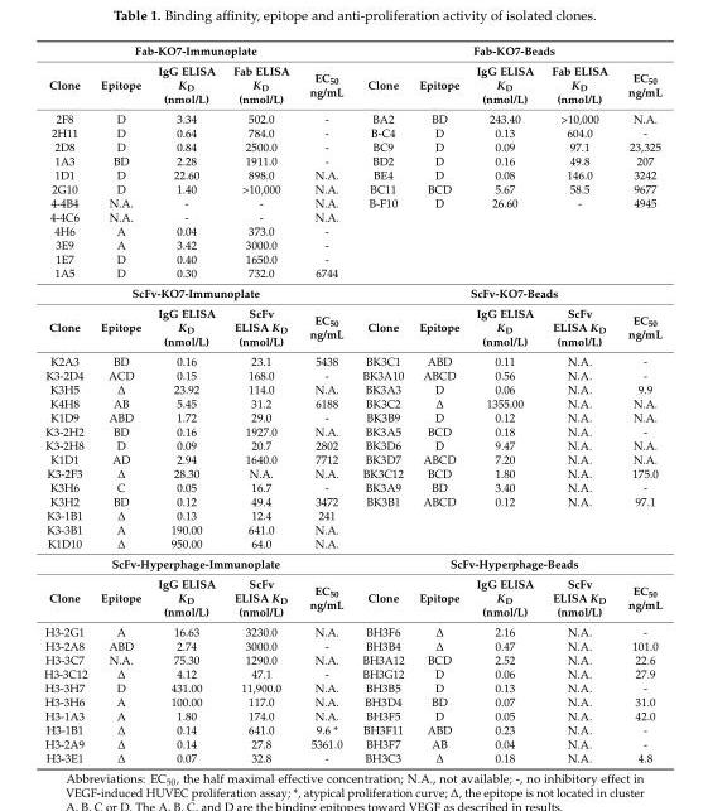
<table><tbody><tr><td colspan="5">Fab-KO7-Immunoplate</td><td colspan="5">Fab-KO7-Beads</td></tr><tr><td>Clone</td><td>Epitope</td><td>IgG ELISA K<sub>D</sub> (nmol/L)</td><td>Fab ELISA K<sub>D</sub> (nmol/L)</td><td>EC<sub>50</sub> ng/mL</td><td>Clone</td><td>Epitope</td><td>IgG ELISA K<sub>D</sub> (nmol/L)</td><td>Fab ELISA K<sub>D</sub> (nmol/L)</td><td>EC<sub>50</sub> ng/mL</td></tr><tr><td>2F8</td><td>D</td><td>3.34</td><td>502.0</td><td>-</td><td>BA2</td><td>BD</td><td>243.40</td><td>&gt;10,000</td><td>N.A.</td></tr><tr><td>2H11</td><td>D</td><td>0.64</td><td>784.0</td><td>-</td><td>B-C4</td><td>D</td><td>0.13</td><td>604.0</td><td>-</td></tr><tr><td>2D8</td><td>D</td><td>0.84</td><td>2500.0</td><td>-</td><td>BC9</td><td>D</td><td>0.09</td><td>97.1</td><td>23,325</td></tr><tr><td>1A3</td><td>BD</td><td>2.28</td><td>1911.0</td><td>-</td><td>BD2</td><td>D</td><td>0.16</td><td>49.8</td><td>207</td></tr><tr><td>1D1</td><td>D</td><td>22.60</td><td>898.0</td><td>N.A.</td><td>BE4</td><td>D</td><td>0.08</td><td>146.0</td><td>3242</td></tr><tr><td>2G10</td><td>D</td><td>1.40</td><td>&gt;10,000</td><td>N.A.</td><td>BC11</td><td>BCD</td><td>5.67</td><td>58.5</td><td>9677</td></tr><tr><td>4-4B4</td><td>N.A.</td><td>-</td><td>-</td><td>N.A.</td><td>B-F10</td><td>D</td><td>26.60</td><td>-</td><td>4945</td></tr><tr><td>4-4C6</td><td>N.A.</td><td>-</td><td>-</td><td>N.A.</td><td></td><td></td><td></td><td></td><td></td></tr><tr><td>4H6</td><td>A</td><td>0.04</td><td>373.0</td><td>-</td><td></td><td></td><td></td><td></td><td></td></tr><tr><td>3E9</td><td>A</td><td>3.42</td><td>3000.0</td><td>-</td><td></td><td></td><td></td><td></td><td></td></tr><tr><td>1E7</td><td>D</td><td>0.40</td><td>1650.0</td><td>-</td><td></td><td></td><td></td><td></td><td></td></tr><tr><td>1A5</td><td>D</td><td>0.30</td><td>732.0</td><td>6744</td><td></td><td></td><td></td><td></td><td></td></tr><tr><td colspan="5">ScFv-KO7-Immunoplate</td><td colspan="5">ScFv-KO7-Beads</td></tr><tr><td>Clone</td><td>Epitope</td><td>IgG ELISA K<sub>D</sub> (nmol/L)</td><td>ScFv ELISA K<sub>D</sub> (nmol/L)</td><td>EC<sub>50</sub> ng/mL</td><td>Clone</td><td>Epitope</td><td>IgG ELISA K<sub>D</sub> (nmol/L)</td><td>ScFv ELISA K<sub>D</sub> (nmol/L)</td><td>EC<sub>50</sub> ng/mL</td></tr><tr><td>K2A3</td><td>BD</td><td>0.16</td><td>23.1</td><td>5438</td><td>BK3C1</td><td>ABD</td><td>0.11</td><td>N.A.</td><td>-</td></tr><tr><td>K3-2D4</td><td>ACD</td><td>0.15</td><td>168.0</td><td>-</td><td>BK3A10</td><td>ABCD</td><td>0.56</td><td>N.A.</td><td>-</td></tr><tr><td>K3H5</td><td>∆</td><td>23.92</td><td>114.0</td><td>N.A.</td><td>BK3A3</td><td>D</td><td>0.06</td><td>N.A.</td><td>9.9</td></tr><tr><td>K4H8</td><td>AB</td><td>5.45</td><td>31.2</td><td>6188</td><td>BK3C2</td><td>∆</td><td>1355.00</td><td>N.A.</td><td>N.A.</td></tr><tr><td>K1D9</td><td>ABD</td><td>1.72</td><td>29.0</td><td>-</td><td>BK3B9</td><td>D</td><td>0.12</td><td>N.A.</td><td>N.A.</td></tr><tr><td>K3-2H2</td><td>BD</td><td>0.16</td><td>1927.0</td><td>N.A.</td><td>BK3A5</td><td>BCD</td><td>0.18</td><td>N.A.</td><td>-</td></tr><tr><td>K3-2H8</td><td>D</td><td>0.09</td><td>20.7</td><td>2802</td><td>BK3D6</td><td>D</td><td>9.47</td><td>N.A.</td><td>N.A.</td></tr><tr><td>K1D1</td><td>AD</td><td>2.94</td><td>1640.0</td><td>7712</td><td>BK3D7</td><td>ABCD</td><td>7.20</td><td>N.A.</td><td>N.A.</td></tr><tr><td>K3-2F3</td><td>∆</td><td>28.30</td><td>N.A.</td><td>N.A.</td><td>BK3C12</td><td>BCD</td><td>1.80</td><td>N.A.</td><td>175.0</td></tr><tr><td>K3H6</td><td>C</td><td>0.05</td><td>16.7</td><td>-</td><td>BK3A9</td><td>BD</td><td>3.40</td><td>N.A.</td><td>-</td></tr><tr><td>K3H2</td><td>BD</td><td>0.12</td><td>49.4</td><td>3472</td><td>BK3B1</td><td>ABCD</td><td>0.12</td><td>N.A.</td><td>97.1</td></tr><tr><td>K3-1B1</td><td>∆</td><td>0.13</td><td>12.4</td><td>241</td><td></td><td></td><td></td><td></td><td></td></tr><tr><td>K3-3B1</td><td>A</td><td>190.00</td><td>641.0</td><td>N.A.</td><td></td><td></td><td></td><td></td><td></td></tr><tr><td>K1D10</td><td>∆</td><td>950.00</td><td>64.0</td><td>N.A.</td><td></td><td></td><td></td><td></td><td></td></tr><tr><td colspan="5">ScFv-Hyperphage-Immunoplate</td><td colspan="5">ScFv-Hyperphage-Beads</td></tr><tr><td>Clone</td><td>Epitope</td><td>IgG ELISA K<sub>D</sub> (nmol/L)</td><td>ScFv ELISA K<sub>D</sub> (nmol/L)</td><td>EC<sub>50</sub> ng/mL</td><td>Clone</td><td>Epitope</td><td>IgG ELISA K<sub>D</sub> (nmol/L)</td><td>ScFv ELISA K<sub>D</sub> (nmol/L)</td><td>EC<sub>50</sub> ng/mL</td></tr><tr><td>H3-2G1</td><td>A</td><td>16.63</td><td>3230.0</td><td>N.A.</td><td>BH3F6</td><td>∆</td><td>2.16</td><td>N.A.</td><td>-</td></tr><tr><td>H3-2A8</td><td>ABD</td><td>2.74</td><td>3000.0</td><td>-</td><td>BH3B4</td><td>∆</td><td>0.47</td><td>N.A.</td><td>101.0</td></tr><tr><td>H3-3C7</td><td>N.A.</td><td>75.30</td><td>1290.0</td><td>N.A.</td><td>BH3A12</td><td>BCD</td><td>2.52</td><td>N.A.</td><td>22.6</td></tr><tr><td>H3-3C12</td><td>∆</td><td>4.12</td><td>47.1</td><td>-</td><td>BH3G12</td><td>D</td><td>0.06</td><td>N.A.</td><td>27.9</td></tr><tr><td>H3-3H7</td><td>D</td><td>431.00</td><td>11,900.0</td><td>N.A.</td><td>BH3B5</td><td>D</td><td>0.13</td><td>N.A.</td><td>-</td></tr><tr><td>H3-3H6</td><td>A</td><td>100.00</td><td>117.0</td><td>N.A.</td><td>BH3D4</td><td>BD</td><td>0.07</td><td>N.A.</td><td>31.0</td></tr><tr><td>H3-1A3</td><td>A</td><td>1.80</td><td>174.0</td><td>N.A.</td><td>BH3F5</td><td>D</td><td>0.05</td><td>N.A.</td><td>42.0</td></tr><tr><td>H3-1B1</td><td>∆</td><td>0.14</td><td>641.0</td><td>9.6 *</td><td>BH3F11</td><td>ABD</td><td>0.23</td><td>N.A.</td><td>-</td></tr><tr><td>H3-2A9</td><td>∆</td><td>0.14</td><td>27.8</td><td>5361.0</td><td>BH3F7</td><td>AB</td><td>0.04</td><td>N.A.</td><td>-</td></tr><tr><td>H3-3E1</td><td>∆</td><td>0.07</td><td>32.8</td><td>-</td><td>BH3C3</td><td>∆</td><td>0.18</td><td>N.A.</td><td>4.8</td></tr></tbody></table>